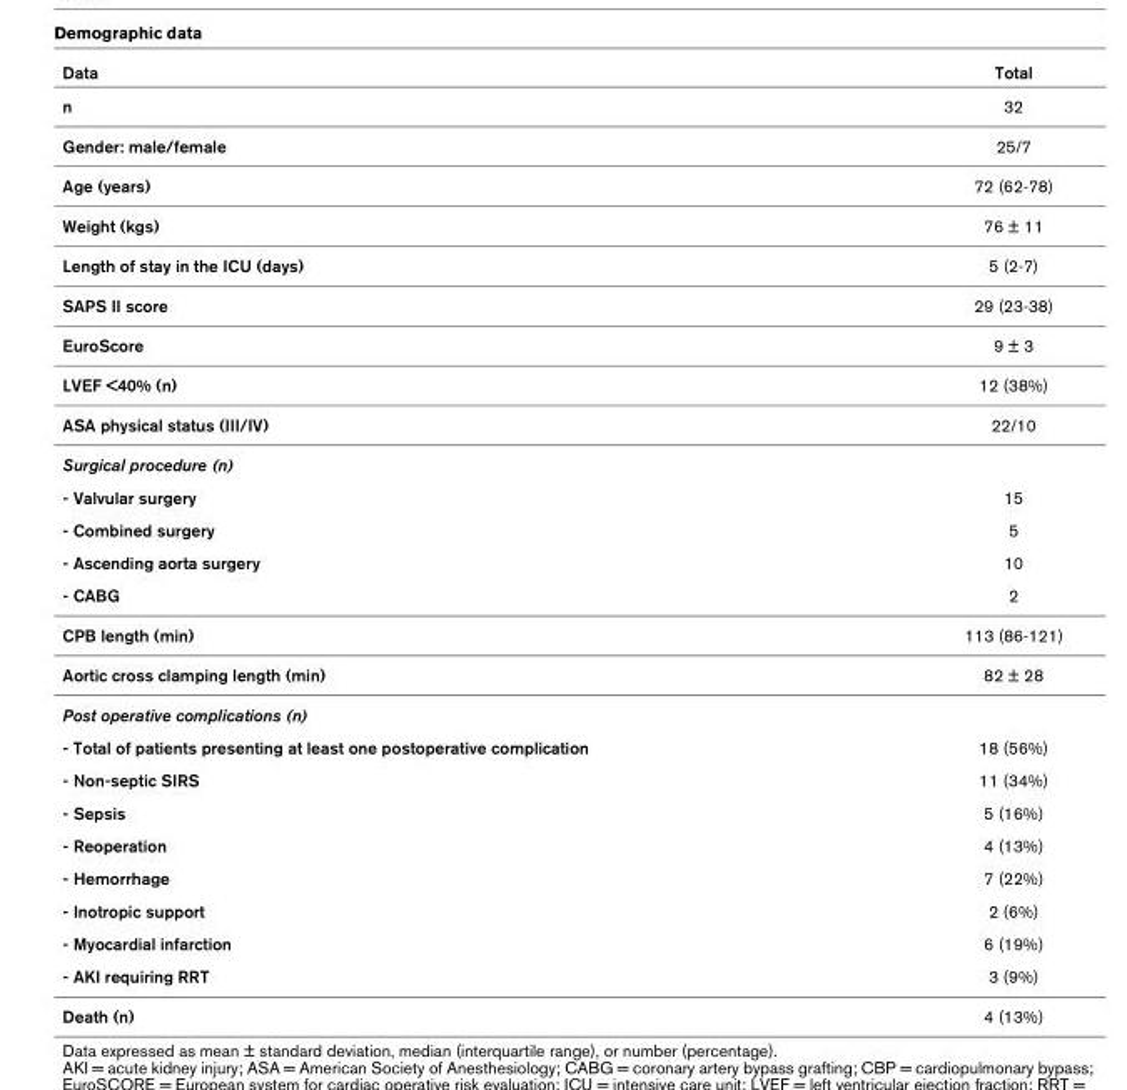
<table><thead><tr><td>Data</td><td>Total</td></tr></thead><tbody><tr><td>n</td><td>32</td></tr><tr><td>Gender: male/female</td><td>25/7</td></tr><tr><td>Age (years)</td><td>72 (62-78)</td></tr><tr><td>Weight (kgs)</td><td>76 ± 11</td></tr><tr><td>Length of stay in the ICU (days)</td><td>5 (2-7)</td></tr><tr><td>SAPS II score</td><td>29 (23-38)</td></tr><tr><td>EuroScore</td><td>9 ± 3</td></tr><tr><td>LVEF &lt;40% (n)</td><td>12 (38%)</td></tr><tr><td>ASA physical status (III/IV)</td><td>22/10</td></tr><tr><td colspan="2">Surgical procedure (n)</td></tr><tr><td>- Valvular surgery</td><td>15</td></tr><tr><td>- Combined surgery</td><td>5</td></tr><tr><td>- Ascending aorta surgery</td><td>10</td></tr><tr><td>- CABG</td><td>2</td></tr><tr><td>CPB length (min)</td><td>113 (86-121)</td></tr><tr><td>Aortic cross clamping length (min)</td><td>82 ± 28</td></tr><tr><td colspan="2">Post operative complications (n)</td></tr><tr><td>- Total of patients presenting at least one postoperative complication</td><td>18 (56%)</td></tr><tr><td>- Non-septic SIRS</td><td>11 (34%)</td></tr><tr><td>- Sepsis</td><td>5 (16%)</td></tr><tr><td>- Reoperation</td><td>4 (13%)</td></tr><tr><td>- Hemorrhage</td><td>7 (22%)</td></tr><tr><td>- Inotropic support</td><td>2 (6%)</td></tr><tr><td>- Myocardial infarction</td><td>6 (19%)</td></tr><tr><td>- AKI requiring RRT</td><td>3 (9%)</td></tr><tr><td>Death (n)</td><td>4 (13%)</td></tr></tbody></table>